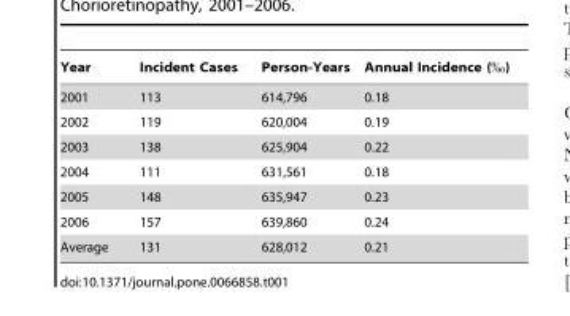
<table><thead><tr><td>Year</td><td>Incident Cases</td><td>Person-Years</td><td>Annual Incidence (‰)</td></tr></thead><tbody><tr><td>2001</td><td>113</td><td>614,796</td><td>0.18</td></tr><tr><td>2002</td><td>119</td><td>620,004</td><td>0.19</td></tr><tr><td>2003</td><td>138</td><td>625,904</td><td>0.22</td></tr><tr><td>2004</td><td>111</td><td>631,561</td><td>0.18</td></tr><tr><td>2005</td><td>148</td><td>635,947</td><td>0.23</td></tr><tr><td>2006</td><td>157</td><td>639,860</td><td>0.24</td></tr><tr><td>Average</td><td>131</td><td>628,012</td><td>0.21</td></tr></tbody></table>